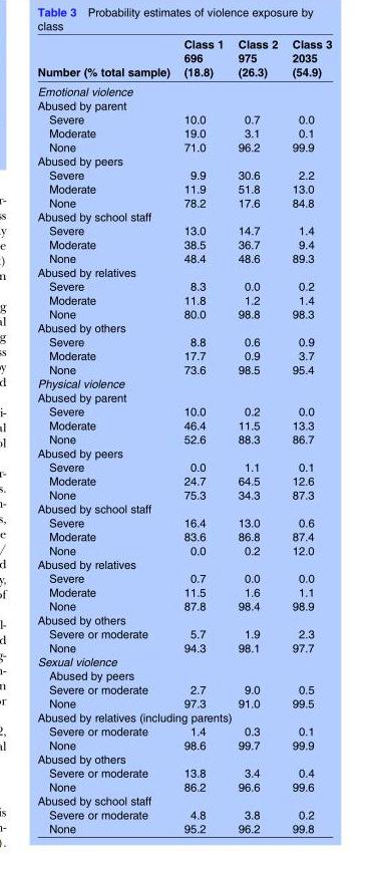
<table><thead><tr><td rowspan="2">Number (% total sample)</td><td rowspan="2">Class 1 696 (18.8)</td><td rowspan="2">Class 2 975 (26.3)</td><td rowspan="2">Class 3 2035 (54.9)</td></tr><tr></tr></thead><tbody><tr><td colspan="4">Emotional violence</td></tr><tr><td colspan="4">Abused by parent</td></tr><tr><td>Severe</td><td>10.0</td><td>0.7</td><td>0.0</td></tr><tr><td>Moderate</td><td>19.0</td><td>3.1</td><td>0.1</td></tr><tr><td>None</td><td>71.0</td><td>96.2</td><td>99.9</td></tr><tr><td colspan="4">Abused by peers</td></tr><tr><td>Severe</td><td>9.9</td><td>30.6</td><td>2.2</td></tr><tr><td>Moderate</td><td>11.9</td><td>51.8</td><td>13.0</td></tr><tr><td>None</td><td>78.2</td><td>17.6</td><td>84.8</td></tr><tr><td colspan="4">Abused by school staff</td></tr><tr><td>Severe</td><td>13.0</td><td>14.7</td><td>1.4</td></tr><tr><td>Moderate</td><td>38.5</td><td>36.7</td><td>9.4</td></tr><tr><td>None</td><td>48.4</td><td>48.6</td><td>89.3</td></tr><tr><td colspan="4">Abused by relatives</td></tr><tr><td>Severe</td><td>8.3</td><td>0.0</td><td>0.2</td></tr><tr><td>Moderate</td><td>11.8</td><td>1.2</td><td>1.4</td></tr><tr><td>None</td><td>80.0</td><td>98.8</td><td>98.3</td></tr><tr><td colspan="4">Abused by others</td></tr><tr><td>Severe</td><td>8.8</td><td>0.6</td><td>0.9</td></tr><tr><td>Moderate</td><td>17.7</td><td>0.9</td><td>3.7</td></tr><tr><td>None</td><td>73.6</td><td>98.5</td><td>95.4</td></tr><tr><td colspan="4">Physical violence</td></tr><tr><td colspan="4">Abused by parent</td></tr><tr><td>Severe</td><td>10.0</td><td>0.2</td><td>0.0</td></tr><tr><td>Moderate</td><td>46.4</td><td>11.5</td><td>13.3</td></tr><tr><td>None</td><td>52.6</td><td>88.3</td><td>86.7</td></tr><tr><td colspan="4">Abused by peers</td></tr><tr><td>Severe</td><td>0.0</td><td>1.1</td><td>0.1</td></tr><tr><td>Moderate</td><td>24.7</td><td>64.5</td><td>12.6</td></tr><tr><td>None</td><td>75.3</td><td>34.3</td><td>87.3</td></tr><tr><td colspan="4">Abused by school staff</td></tr><tr><td>Severe</td><td>16.4</td><td>13.0</td><td>0.6</td></tr><tr><td>Moderate</td><td>83.6</td><td>86.8</td><td>87.4</td></tr><tr><td>None</td><td>0.0</td><td>0.2</td><td>12.0</td></tr><tr><td colspan="4">Abused by relatives</td></tr><tr><td>Severe</td><td>0.7</td><td>0.0</td><td>0.0</td></tr><tr><td>Moderate</td><td>11.5</td><td>1.6</td><td>1.1</td></tr><tr><td>None</td><td>87.8</td><td>98.4</td><td>98.9</td></tr><tr><td colspan="4">Abused by others</td></tr><tr><td>Severe or moderate</td><td>5.7</td><td>1.9</td><td>2.3</td></tr><tr><td>None</td><td>94.3</td><td>98.1</td><td>97.7</td></tr><tr><td colspan="4">Sexual violence</td></tr><tr><td colspan="4">Abused by peers</td></tr><tr><td>Severe or moderate</td><td>2.7</td><td>9.0</td><td>0.5</td></tr><tr><td>None</td><td>97.3</td><td>91.0</td><td>99.5</td></tr><tr><td colspan="4">Abused by relatives (including parents)</td></tr><tr><td>Severe or moderate</td><td>1.4</td><td>0.3</td><td>0.1</td></tr><tr><td>None</td><td>98.6</td><td>99.7</td><td>99.9</td></tr><tr><td colspan="4">Abused by others</td></tr><tr><td>Severe or moderate</td><td>13.8</td><td>3.4</td><td>0.4</td></tr><tr><td>None</td><td>86.2</td><td>96.6</td><td>99.6</td></tr><tr><td colspan="4">Abused by school staff</td></tr><tr><td>Severe or moderate</td><td>4.8</td><td>3.8</td><td>0.2</td></tr><tr><td>None</td><td>95.2</td><td>96.2</td><td>99.8</td></tr></tbody></table>